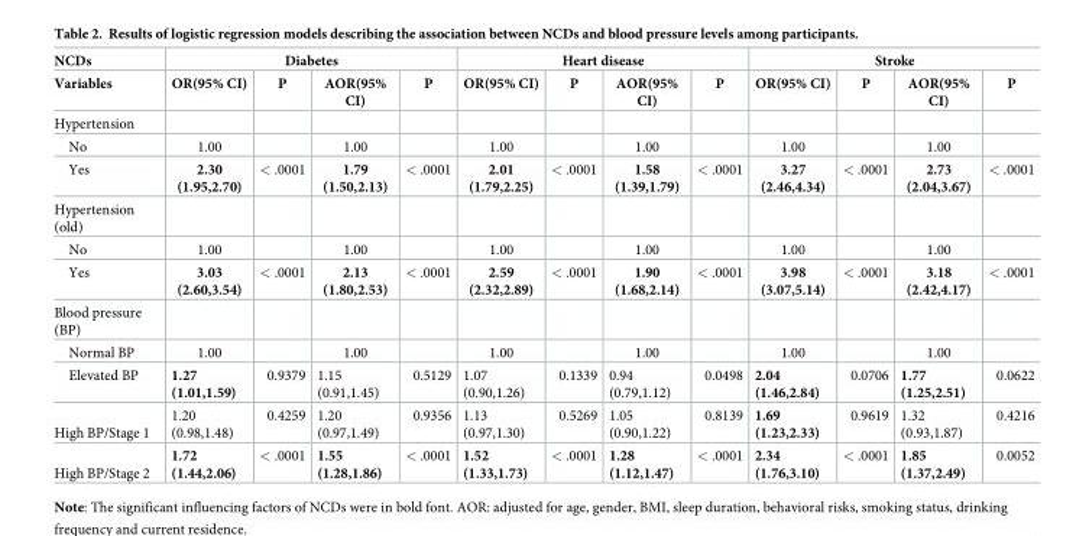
<table><thead><tr><td rowspan="2">NCDs Variables</td><td colspan="4">Diabetes</td><td colspan="4">Heart disease</td><td colspan="4">Stroke</td></tr><tr><td>OR(95% CI)</td><td>P</td><td>AOR(95% CI)</td><td>P</td><td>OR(95% CI)</td><td>P</td><td>AOR(95% CI)</td><td>P</td><td>OR(95% CI)</td><td>P</td><td>AOR(95% CI)</td><td>P</td></tr></thead><tbody><tr><td colspan="13">Hypertension</td></tr><tr><td>No</td><td>1.00</td><td></td><td>1.00</td><td></td><td>1.00</td><td></td><td>1.00</td><td></td><td>1.00</td><td></td><td>1.00</td><td></td></tr><tr><td>Yes</td><td>2.30 (1.95,2.70)</td><td>&lt; .0001</td><td>1.79 (1.50,2.13)</td><td>&lt; .0001</td><td>2.01 (1.79,2.25)</td><td>&lt; .0001</td><td>1.58 (1.39,1.79)</td><td>&lt; .0001</td><td>3.27 (2.46,4.34)</td><td>&lt; .0001</td><td>2.73 (2.04,3.67)</td><td>&lt; .0001</td></tr><tr><td colspan="13">Hypertension (old)</td></tr><tr><td>No</td><td>1.00</td><td></td><td>1.00</td><td></td><td>1.00</td><td></td><td>1.00</td><td></td><td>1.00</td><td></td><td>1.00</td><td></td></tr><tr><td>Yes</td><td>3.03 (2.60,3.54)</td><td>&lt; .0001</td><td>2.13 (1.80,2.53)</td><td>&lt; .0001</td><td>2.59 (2.32,2.89)</td><td>&lt; .0001</td><td>1.90 (1.68,2.14)</td><td>&lt; .0001</td><td>3.98 (3.07,5.14)</td><td>&lt; .0001</td><td>3.18 (2.42,4.17)</td><td>&lt; .0001</td></tr><tr><td colspan="13">Blood pressure (BP)</td></tr><tr><td>Normal BP</td><td>1.00</td><td></td><td>1.00</td><td></td><td>1.00</td><td></td><td>1.00</td><td></td><td>1.00</td><td></td><td>1.00</td><td></td></tr><tr><td>Elevated BP</td><td>1.27 (1.01,1.59)</td><td>0.9379</td><td>1.15 (0.91,1.45)</td><td>0.5129</td><td>1.07 (0.90,1.26)</td><td>0.1339</td><td>0.94 (0.79,1.12)</td><td>0.0498</td><td>2.04 (1.46,2.84)</td><td>0.0706</td><td>1.77 (1.25,2.51)</td><td>0.0622</td></tr><tr><td>High BP/Stage 1</td><td>1.20 (0.98,1.48)</td><td>0.4259</td><td>1.20 (0.97,1.49)</td><td>0.9356</td><td>1.13 (0.97,1.30)</td><td>0.5269</td><td>1.05 (0.90,1.22)</td><td>0.8139</td><td>1.69 (1.23,2.33)</td><td>0.9619</td><td>1.32 (0.93,1.87)</td><td>0.4216</td></tr><tr><td>High BP/Stage 2</td><td>1.72 (1.44,2.06)</td><td>&lt; .0001</td><td>1.55 (1.28,1.86)</td><td>&lt; .0001</td><td>1.52 (1.33,1.73)</td><td>&lt; .0001</td><td>1.28 (1.12,1.47)</td><td>&lt; .0001</td><td>2.34 (1.76,3.10)</td><td>&lt; .0001</td><td>1.85 (1.37,2.49)</td><td>0.0052</td></tr></tbody></table>